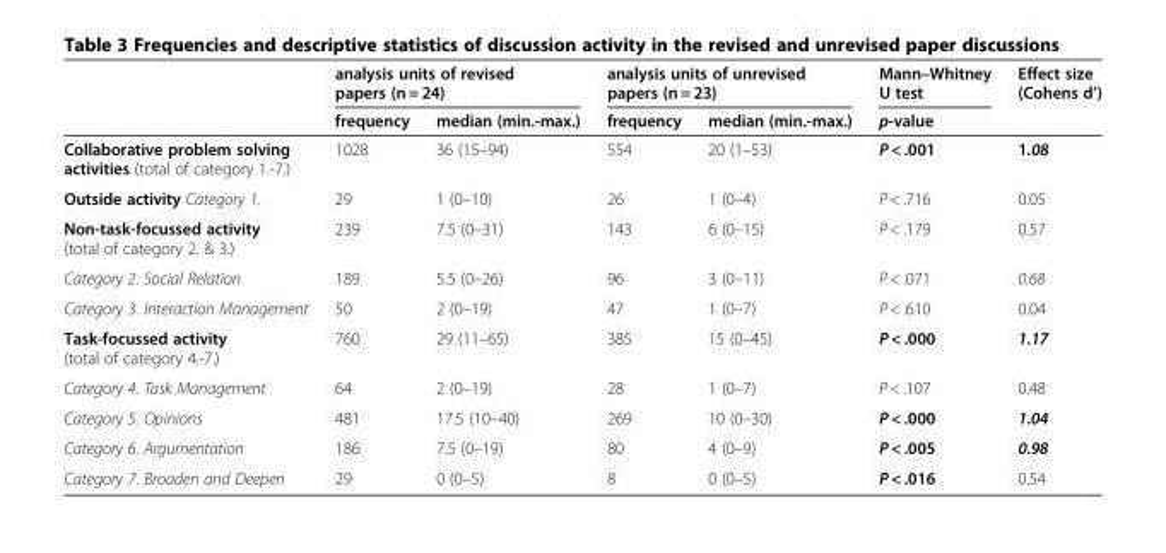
<table><thead><tr><td rowspan="2"></td><td colspan="2">analysis units of revised papers (n = 24)</td><td colspan="2">analysis units of unrevised papers (n = 23)</td><td rowspan="2">Mann–Whitney U test p-value</td><td rowspan="2">Effect size (Cohens d’)</td></tr><tr><td>frequency</td><td>median (min.-max.)</td><td>frequency</td><td>median (min.-max.)</td></tr></thead><tbody><tr><td>Collaborative problem solving activities (total of category 1.-7.)</td><td>1028</td><td>36 (15–94)</td><td>554</td><td>20 (1–53)</td><td>P &lt; .001</td><td>1.08</td></tr><tr><td>Outside activity Category 1.</td><td>29</td><td>1 (0–10)</td><td>26</td><td>1 (0–4)</td><td>P &lt; .716</td><td>0.05</td></tr><tr><td>Non-task-focussed activity (total of category 2. &amp; 3.)</td><td>239</td><td>7.5 (0–31)</td><td>143</td><td>6 (0–15)</td><td>P &lt; .179</td><td>0.57</td></tr><tr><td>Category 2. Social Relation</td><td>189</td><td>5.5 (0–26)</td><td>96</td><td>3 (0–11)</td><td>P &lt; .071</td><td>0.68</td></tr><tr><td>Category 3. Interaction Management</td><td>50</td><td>2 (0–19)</td><td>47</td><td>1 (0–7)</td><td>P &lt; .610</td><td>0.04</td></tr><tr><td>Task-focussed activity (total of category 4.-7.)</td><td>760</td><td>29 (11–65)</td><td>385</td><td>15 (0–45)</td><td>P &lt; .000</td><td>1.17</td></tr><tr><td>Category 4. Task Management</td><td>64</td><td>2 (0–19)</td><td>28</td><td>1 (0–7)</td><td>P &lt; .107</td><td>0.48</td></tr><tr><td>Category 5. Opinions</td><td>481</td><td>17.5 (10–40)</td><td>269</td><td>10 (0–30)</td><td>P &lt; .000</td><td>1.04</td></tr><tr><td>Category 6. Argumentation</td><td>186</td><td>7.5 (0–19)</td><td>80</td><td>4 (0–9)</td><td>P &lt; .005</td><td>0.98</td></tr><tr><td>Category 7. Broaden and Deepen</td><td>29</td><td>0 (0–5)</td><td>8</td><td>0 (0–5)</td><td>P &lt; .016</td><td>0.54</td></tr></tbody></table>